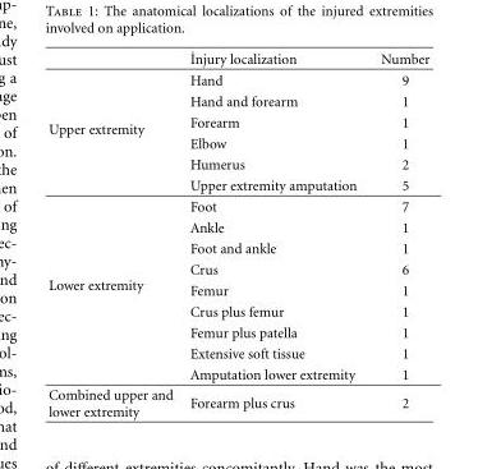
<table><thead><tr><td></td><td>˙Injury localization</td><td>Number</td></tr></thead><tbody><tr><td rowspan="6">Upper extremity</td><td>Hand</td><td>9</td></tr><tr><td>Hand and forearm</td><td>1</td></tr><tr><td>Forearm</td><td>1</td></tr><tr><td>Elbow</td><td>1</td></tr><tr><td>Humerus</td><td>2</td></tr><tr><td>Upper extremity amputation</td><td>5</td></tr><tr><td rowspan="9">Lower extremity</td><td>Foot</td><td>7</td></tr><tr><td>Ankle</td><td>1</td></tr><tr><td>Foot and ankle</td><td>1</td></tr><tr><td>Crus</td><td>6</td></tr><tr><td>Femur</td><td>1</td></tr><tr><td>Crus plus femur</td><td>1</td></tr><tr><td>Femur plus patella</td><td>1</td></tr><tr><td>Extensive soft tissue</td><td>1</td></tr><tr><td>Amputation lower extremity</td><td>1</td></tr><tr><td>Combined upper and lower extremity</td><td>Forearm plus crus</td><td>2</td></tr></tbody></table>